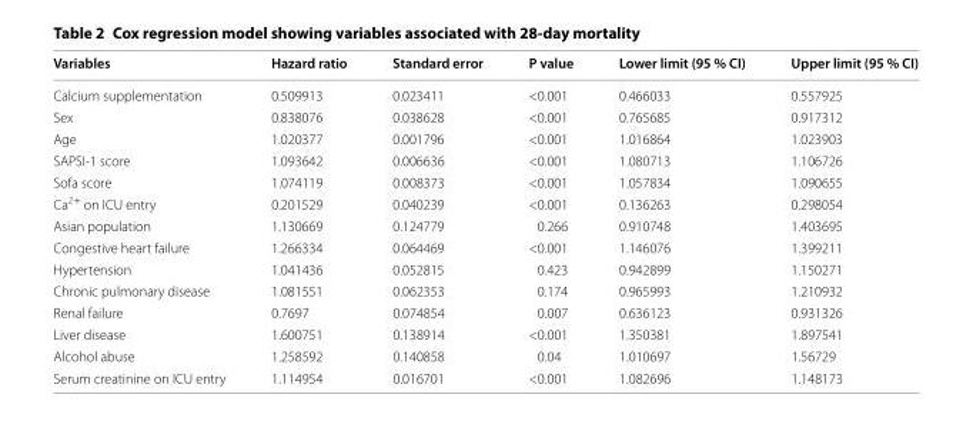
<table><thead><tr><td>Variables</td><td>Hazard ratio</td><td>Standard error</td><td>P value</td><td>Lower limit (95 % CI)</td><td>Upper limit (95 % CI)</td></tr></thead><tbody><tr><td>Calcium supplementation</td><td>0.509913</td><td>0.023411</td><td>&lt;0.001</td><td>0.466033</td><td>0.557925</td></tr><tr><td>Sex</td><td>0.838076</td><td>0.038628</td><td>&lt;0.001</td><td>0.765685</td><td>0.917312</td></tr><tr><td>Age</td><td>1.020377</td><td>0.001796</td><td>&lt;0.001</td><td>1.016864</td><td>1.023903</td></tr><tr><td>SAPSI-1 score</td><td>1.093642</td><td>0.006636</td><td>&lt;0.001</td><td>1.080713</td><td>1.106726</td></tr><tr><td>Sofa score</td><td>1.074119</td><td>0.008373</td><td>&lt;0.001</td><td>1.057834</td><td>1.090655</td></tr><tr><td>Ca<sup>2+</sup> on ICU entry</td><td>0.201529</td><td>0.040239</td><td>&lt;0.001</td><td>0.136263</td><td>0.298054</td></tr><tr><td>Asian population</td><td>1.130669</td><td>0.124779</td><td>0.266</td><td>0.910748</td><td>1.403695</td></tr><tr><td>Congestive heart failure</td><td>1.266334</td><td>0.064469</td><td>&lt;0.001</td><td>1.146076</td><td>1.399211</td></tr><tr><td>Hypertension</td><td>1.041436</td><td>0.052815</td><td>0.423</td><td>0.942899</td><td>1.150271</td></tr><tr><td>Chronic pulmonary disease</td><td>1.081551</td><td>0.062353</td><td>0.174</td><td>0.965993</td><td>1.210932</td></tr><tr><td>Renal failure</td><td>0.7697</td><td>0.074854</td><td>0.007</td><td>0.636123</td><td>0.931326</td></tr><tr><td>Liver disease</td><td>1.600751</td><td>0.138914</td><td>&lt;0.001</td><td>1.350381</td><td>1.897541</td></tr><tr><td>Alcohol abuse</td><td>1.258592</td><td>0.140858</td><td>0.04</td><td>1.010697</td><td>1.56729</td></tr><tr><td>Serum creatinine on ICU entry</td><td>1.114954</td><td>0.016701</td><td>&lt;0.001</td><td>1.082696</td><td>1.148173</td></tr></tbody></table>